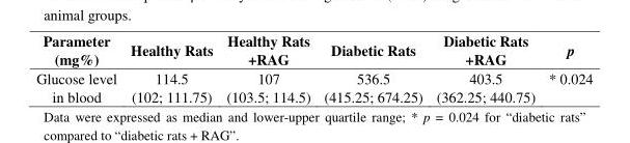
<table><thead><tr><td>Parameter (mg%)</td><td>Healthy Rats</td><td>Healthy Rats +RAG</td><td>Diabetic Rats</td><td>Diabetic Rats +RAG</td><td>p</td></tr></thead><tbody><tr><td>Glucose level in blood</td><td>114.5 (102; 111.75)</td><td>107 (103.5; 114.5)</td><td>536.5 (415.25; 674.25)</td><td>403.5 (362.25; 440.75)</td><td>* 0.024</td></tr></tbody></table>